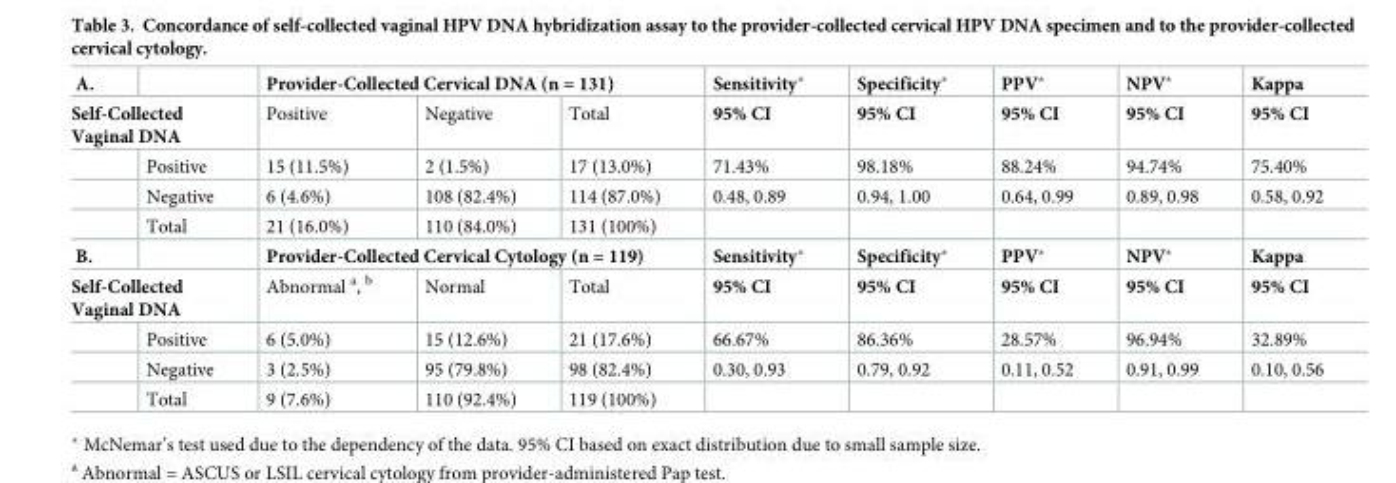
<table><tbody><tr><td>A.</td><td></td><td colspan="3">Provider-Collected Cervical DNA (n = 131)</td><td>Sensitivity*</td><td>Specificity*</td><td>PPV*</td><td>NPV*</td><td>Kappa</td></tr><tr><td colspan="2">Self-Collected Vaginal DNA</td><td>Positive</td><td>Negative</td><td>Total</td><td>95% CI</td><td>95% CI</td><td>95% CI</td><td>95% CI</td><td>95% CI</td></tr><tr><td></td><td>Positive</td><td>15 (11.5%)</td><td>2 (1.5%)</td><td>17 (13.0%)</td><td>71.43%</td><td>98.18%</td><td>88.24%</td><td>94.74%</td><td>75.40%</td></tr><tr><td></td><td>Negative</td><td>6 (4.6%)</td><td>108 (82.4%)</td><td>114 (87.0%)</td><td>0.48, 0.89</td><td>0.94, 1.00</td><td>0.64, 0.99</td><td>0.89, 0.98</td><td>0.58, 0.92</td></tr><tr><td></td><td>Total</td><td>21 (16.0%)</td><td>110 (84.0%)</td><td>131 (100%)</td><td></td><td></td><td></td><td></td><td></td></tr><tr><td>B.</td><td></td><td colspan="3">Provider-Collected Cervical Cytology (n = 119)</td><td>Sensitivity*</td><td>Specificity*</td><td>PPV*</td><td>NPV*</td><td>Kappa</td></tr><tr><td colspan="2">Self-Collected Vaginal DNA</td><td>Abnormal <sup>a</sup>, <sup>b</sup></td><td>Normal</td><td>Total</td><td>95% CI</td><td>95% CI</td><td>95% CI</td><td>95% CI</td><td>95% CI</td></tr><tr><td></td><td>Positive</td><td>6 (5.0%)</td><td>15 (12.6%)</td><td>21 (17.6%)</td><td>66.67%</td><td>86.36%</td><td>28.57%</td><td>96.94%</td><td>32.89%</td></tr><tr><td></td><td>Negative</td><td>3 (2.5%)</td><td>95 (79.8%)</td><td>98 (82.4%)</td><td>0.30, 0.93</td><td>0.79, 0.92</td><td>0.11, 0.52</td><td>0.91, 0.99</td><td>0.10, 0.56</td></tr><tr><td></td><td>Total</td><td>9 (7.6%)</td><td>110 (92.4%)</td><td>119 (100%)</td><td></td><td></td><td></td><td></td><td></td></tr></tbody></table>